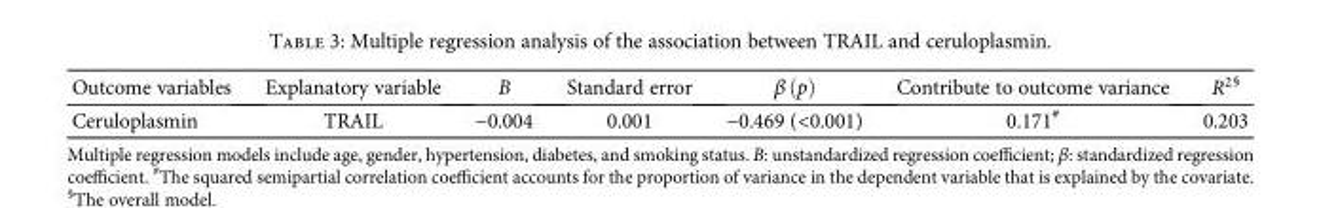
<table><thead><tr><td>Outcome variables</td><td>Explanatory variable</td><td>B</td><td>Standard error</td><td>β p</td><td>Contribute to outcome variance</td><td>R<sup>2§</sup></td></tr></thead><tbody><tr><td>Ceruloplasmin</td><td>TRAIL</td><td>−0.004</td><td>0.001</td><td>−0.469 (&lt;0.001)</td><td>0.171<sup>#</sup></td><td>0.203</td></tr></tbody></table>